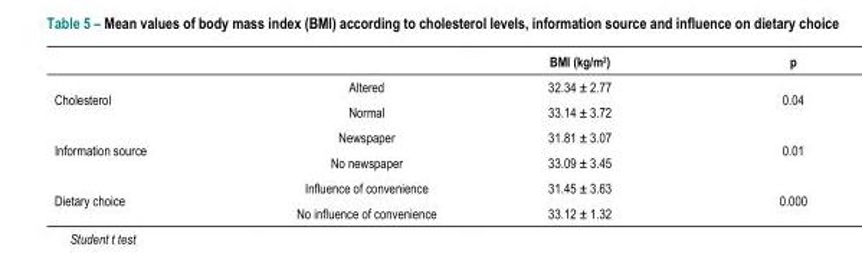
<table><thead><tr><td></td><td></td><td>BMI (kg/m<sup>2</sup>)</td><td>p</td></tr></thead><tbody><tr><td rowspan="2">Cholesterol</td><td>Altered</td><td>32.34 ± 2.77</td><td rowspan="2">0.04</td></tr><tr><td>Normal</td><td>33.14 ± 3.72</td></tr><tr><td rowspan="2">Information source</td><td>Newspaper</td><td>31.81 ± 3.07</td><td rowspan="2">0.01</td></tr><tr><td>No newspaper</td><td>33.09 ± 3.45</td></tr><tr><td rowspan="2">Dietary choice</td><td>Influence of convenience</td><td>31.45 ± 3.63</td><td rowspan="2">0.000</td></tr><tr><td>No influence of convenience</td><td>33.12 ± 1.32</td></tr></tbody></table>